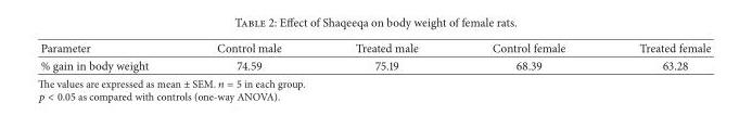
<table><thead><tr><td>Parameter</td><td>Control male</td><td>Treated male</td><td>Control female</td><td>Treated female</td></tr></thead><tbody><tr><td>% gain in body weight</td><td>74.59</td><td>75.19</td><td>68.39</td><td>63.28</td></tr></tbody></table>